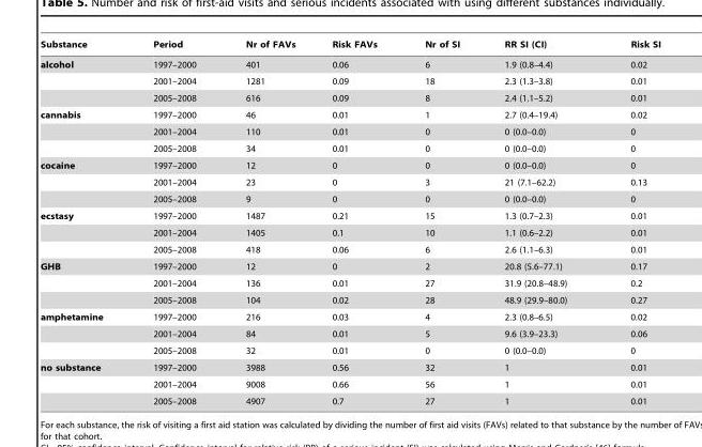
<table><thead><tr><td>Substance</td><td>Period</td><td>Nr of FAVs</td><td>Risk FAVs</td><td>Nr of SI</td><td>RR SI (CI)</td><td>Risk SI</td></tr></thead><tbody><tr><td rowspan="3">alcohol</td><td>1997–2000</td><td>401</td><td>0.06</td><td>6</td><td>1.9 (0.8–4.4)</td><td>0.02</td></tr><tr><td>2001–2004</td><td>1281</td><td>0.09</td><td>18</td><td>2.3 (1.3–3.8)</td><td>0.01</td></tr><tr><td>2005–2008</td><td>616</td><td>0.09</td><td>8</td><td>2.4 (1.1–5.2)</td><td>0.01</td></tr><tr><td rowspan="3">cannabis</td><td>1997–2000</td><td>46</td><td>0.01</td><td>1</td><td>2.7 (0.4–19.4)</td><td>0.02</td></tr><tr><td>2001–2004</td><td>110</td><td>0.01</td><td>0</td><td>0 (0.0–0.0)</td><td>0</td></tr><tr><td>2005–2008</td><td>34</td><td>0.01</td><td>0</td><td>0 (0.0–0.0)</td><td>0</td></tr><tr><td rowspan="3">cocaine</td><td>1997–2000</td><td>12</td><td>0</td><td>0</td><td>0 (0.0–0.0)</td><td>0</td></tr><tr><td>2001–2004</td><td>23</td><td>0</td><td>3</td><td>21 (7.1–62.2)</td><td>0.13</td></tr><tr><td>2005–2008</td><td>9</td><td>0</td><td>0</td><td>0 (0.0–0.0)</td><td>0</td></tr><tr><td rowspan="3">ecstasy</td><td>1997–2000</td><td>1487</td><td>0.21</td><td>15</td><td>1.3 (0.7–2.3)</td><td>0.01</td></tr><tr><td>2001–2004</td><td>1405</td><td>0.1</td><td>10</td><td>1.1 (0.6–2.2)</td><td>0.01</td></tr><tr><td>2005–2008</td><td>418</td><td>0.06</td><td>6</td><td>2.6 (1.1–6.3)</td><td>0.01</td></tr><tr><td rowspan="3">GHB</td><td>1997–2000</td><td>12</td><td>0</td><td>2</td><td>20.8 (5.6–77.1)</td><td>0.17</td></tr><tr><td>2001–2004</td><td>136</td><td>0.01</td><td>27</td><td>31.9 (20.8–48.9)</td><td>0.2</td></tr><tr><td>2005–2008</td><td>104</td><td>0.02</td><td>28</td><td>48.9 (29.9–80.0)</td><td>0.27</td></tr><tr><td rowspan="3">amphetamine</td><td>1997–2000</td><td>216</td><td>0.03</td><td>4</td><td>2.3 (0.8–6.5)</td><td>0.02</td></tr><tr><td>2001–2004</td><td>84</td><td>0.01</td><td>5</td><td>9.6 (3.9–23.3)</td><td>0.06</td></tr><tr><td>2005–2008</td><td>32</td><td>0.01</td><td>0</td><td>0 (0.0–0.0)</td><td>0</td></tr><tr><td rowspan="3">no substance</td><td>1997–2000</td><td>3988</td><td>0.56</td><td>32</td><td>1</td><td>0.01</td></tr><tr><td>2001–2004</td><td>9008</td><td>0.66</td><td>56</td><td>1</td><td>0.01</td></tr><tr><td>2005–2008</td><td>4907</td><td>0.7</td><td>27</td><td>1</td><td>0.01</td></tr></tbody></table>